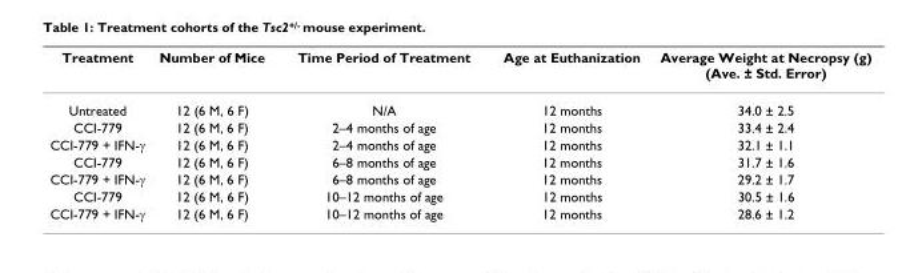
<table><thead><tr><td>Treatment</td><td>Number of Mice</td><td>Time Period of Treatment</td><td>Age at Euthanization</td><td>Average Weight at Necropsy (g) (Ave. ± Std. Error)</td></tr></thead><tbody><tr><td>Untreated</td><td>12 (6 M, 6 F)</td><td>N/A</td><td>12 months</td><td>34.0 ± 2.5</td></tr><tr><td>CCI-779</td><td>12 (6 M, 6 F)</td><td>2–4 months of age</td><td>12 months</td><td>33.4 ± 2.4</td></tr><tr><td>CCI-779 + IFN-γ</td><td>12 (6 M, 6 F)</td><td>2–4 months of age</td><td>12 months</td><td>32.1 ± 1.1</td></tr><tr><td>CCI-779</td><td>12 (6 M, 6 F)</td><td>6–8 months of age</td><td>12 months</td><td>31.7 ± 1.6</td></tr><tr><td>CCI-779 + IFN-γ</td><td>12 (6 M, 6 F)</td><td>6–8 months of age</td><td>12 months</td><td>29.2 ± 1.7</td></tr><tr><td>CCI-779</td><td>12 (6 M, 6 F)</td><td>10–12 months of age</td><td>12 months</td><td>30.5 ± 1.6</td></tr><tr><td>CCI-779 + IFN-γ</td><td>12 (6 M, 6 F)</td><td>10–12 months of age</td><td>12 months</td><td>28.6 ± 1.2</td></tr></tbody></table>